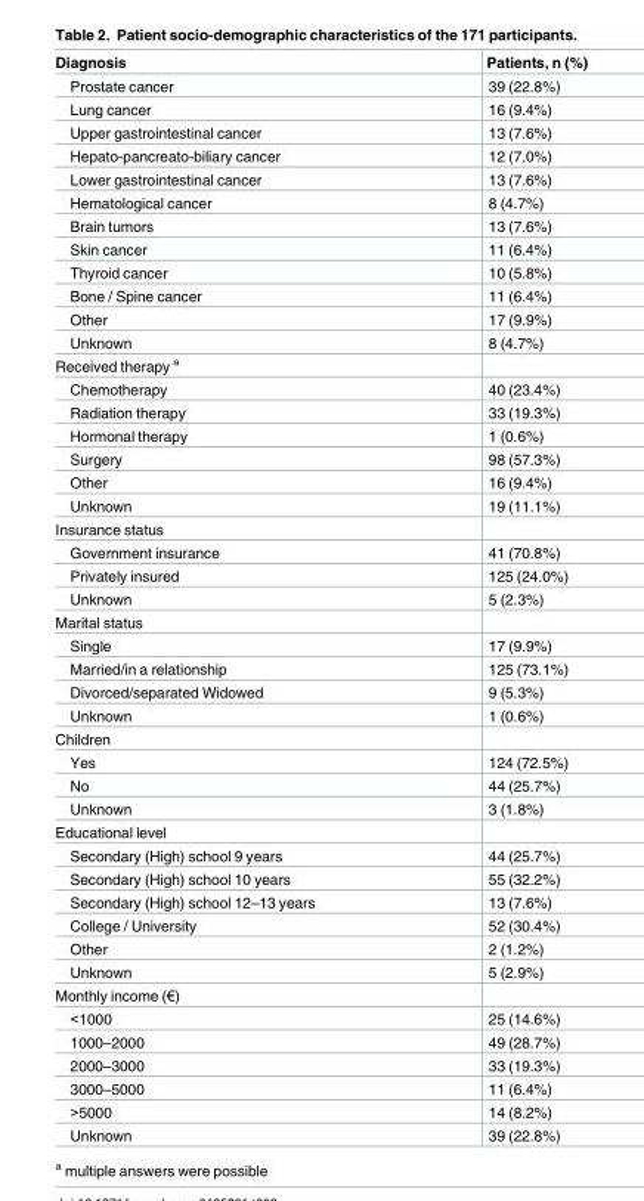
<table><thead><tr><td>Diagnosis</td><td>Patients, n (%)</td></tr></thead><tbody><tr><td>Prostate cancer</td><td>39 (22.8%)</td></tr><tr><td>Lung cancer</td><td>16 (9.4%)</td></tr><tr><td>Upper gastrointestinal cancer</td><td>13 (7.6%)</td></tr><tr><td>Hepato-pancreato-biliary cancer</td><td>12 (7.0%)</td></tr><tr><td>Lower gastrointestinal cancer</td><td>13 (7.6%)</td></tr><tr><td>Hematological cancer</td><td>8 (4.7%)</td></tr><tr><td>Brain tumors</td><td>13 (7.6%)</td></tr><tr><td>Skin cancer</td><td>11 (6.4%)</td></tr><tr><td>Thyroid cancer</td><td>10 (5.8%)</td></tr><tr><td>Bone / Spine cancer</td><td>11 (6.4%)</td></tr><tr><td>Other</td><td>17 (9.9%)</td></tr><tr><td>Unknown</td><td>8 (4.7%)</td></tr><tr><td colspan="2">Received therapy <sup>a</sup></td></tr><tr><td>Chemotherapy</td><td>40 (23.4%)</td></tr><tr><td>Radiation therapy</td><td>33 (19.3%)</td></tr><tr><td>Hormonal therapy</td><td>1 (0.6%)</td></tr><tr><td>Surgery</td><td>98 (57.3%)</td></tr><tr><td>Other</td><td>16 (9.4%)</td></tr><tr><td>Unknown</td><td>19 (11.1%)</td></tr><tr><td colspan="2">Insurance status</td></tr><tr><td>Government insurance</td><td>41 (70.8%)</td></tr><tr><td>Privately insured</td><td>125 (24.0%)</td></tr><tr><td>Unknown</td><td>5 (2.3%)</td></tr><tr><td colspan="2">Marital status</td></tr><tr><td>Single</td><td>17 (9.9%)</td></tr><tr><td>Married/in a relationship</td><td>125 (73.1%)</td></tr><tr><td>Divorced/separated Widowed</td><td>9 (5.3%)</td></tr><tr><td>Unknown</td><td>1 (0.6%)</td></tr><tr><td colspan="2">Children</td></tr><tr><td>Yes</td><td>124 (72.5%)</td></tr><tr><td>No</td><td>44 (25.7%)</td></tr><tr><td>Unknown</td><td>3 (1.8%)</td></tr><tr><td colspan="2">Educational level</td></tr><tr><td>Secondary (High) school 9 years</td><td>44 (25.7%)</td></tr><tr><td>Secondary (High) school 10 years</td><td>55 (32.2%)</td></tr><tr><td>Secondary (High) school 12–13 years</td><td>13 (7.6%)</td></tr><tr><td>College / University</td><td>52 (30.4%)</td></tr><tr><td>Other</td><td>2 (1.2%)</td></tr><tr><td>Unknown</td><td>5 (2.9%)</td></tr><tr><td colspan="2">Monthly income (€)</td></tr><tr><td>&lt;1000</td><td>25 (14.6%)</td></tr><tr><td>1000–2000</td><td>49 (28.7%)</td></tr><tr><td>2000–3000</td><td>33 (19.3%)</td></tr><tr><td>3000–5000</td><td>11 (6.4%)</td></tr><tr><td>&gt;5000</td><td>14 (8.2%)</td></tr><tr><td>Unknown</td><td>39 (22.8%)</td></tr></tbody></table>